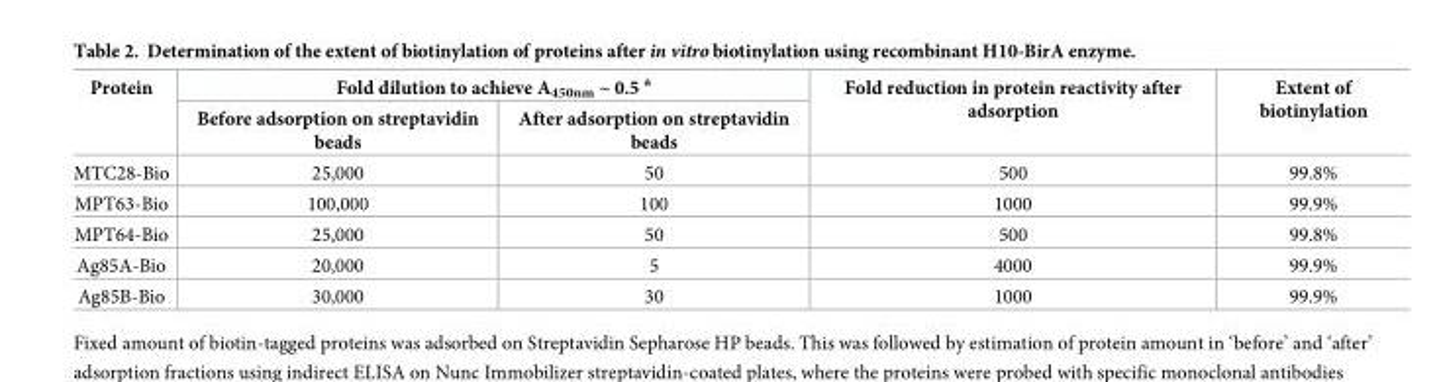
<table><thead><tr><td rowspan="2">Protein</td><td colspan="2">Fold dilution to achieve A<sub>450nm</sub> ~ 0.5 <sup>a</sup></td><td rowspan="2">Fold reduction in protein reactivity after adsorption</td><td rowspan="2">Extent of biotinylation</td></tr><tr><td>Before adsorption on streptavidin beads</td><td>After adsorption on streptavidin beads</td></tr></thead><tbody><tr><td>MTC28-Bio</td><td>25,000</td><td>50</td><td>500</td><td>99.8%</td></tr><tr><td>MPT63-Bio</td><td>100,000</td><td>100</td><td>1000</td><td>99.9%</td></tr><tr><td>MPT64-Bio</td><td>25,000</td><td>50</td><td>500</td><td>99.8%</td></tr><tr><td>Ag85A-Bio</td><td>20,000</td><td>5</td><td>4000</td><td>99.9%</td></tr><tr><td>Ag85B-Bio</td><td>30,000</td><td>30</td><td>1000</td><td>99.9%</td></tr></tbody></table>